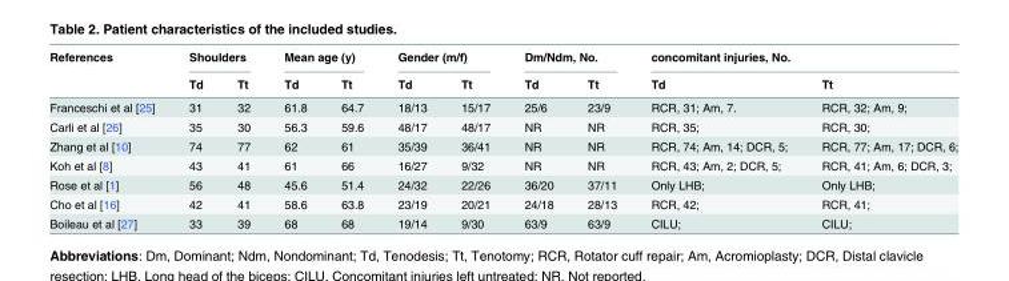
<table><thead><tr><td rowspan="2">References</td><td colspan="2">Shoulders</td><td colspan="2">Mean age (y)</td><td colspan="2">Gender (m/f)</td><td colspan="2">Dm/Ndm, No.</td><td colspan="2">concomitant injuries, No.</td></tr><tr><td>Td</td><td>Tt</td><td>Td</td><td>Tt</td><td>Td</td><td>Tt</td><td>Td</td><td>Tt</td><td>Td</td><td>Tt</td></tr></thead><tbody><tr><td>Franceschi et al [25]</td><td>31</td><td>32</td><td>61.8</td><td>64.7</td><td>18/13</td><td>15/17</td><td>25/6</td><td>23/9</td><td>RCR, 31; Am, 7.</td><td>RCR, 32; Am, 9;</td></tr><tr><td>Carli et al [26]</td><td>35</td><td>30</td><td>56.3</td><td>59.6</td><td>48/17</td><td>48/17</td><td>NR</td><td>NR</td><td>RCR, 35;</td><td>RCR, 30;</td></tr><tr><td>Zhang et al [10]</td><td>74</td><td>77</td><td>62</td><td>61</td><td>35/39</td><td>36/41</td><td>NR</td><td>NR</td><td>RCR, 74; Am, 14; DCR, 5;</td><td>RCR, 77; Am, 17; DCR, 6;</td></tr><tr><td>Koh et al [8]</td><td>43</td><td>41</td><td>61</td><td>66</td><td>16/27</td><td>9/32</td><td>NR</td><td>NR</td><td>RCR, 43; Am, 2; DCR, 5;</td><td>RCR, 41; Am, 6; DCR, 3;</td></tr><tr><td>Rose et al [1]</td><td>56</td><td>48</td><td>45.6</td><td>51.4</td><td>24/32</td><td>22/26</td><td>36/20</td><td>37/11</td><td>Only LHB;</td><td>Only LHB;</td></tr><tr><td>Cho et al [16]</td><td>42</td><td>41</td><td>58.6</td><td>63.8</td><td>23/19</td><td>20/21</td><td>24/18</td><td>28/13</td><td>RCR, 42;</td><td>RCR, 41;</td></tr><tr><td>Boileau et al [27]</td><td>33</td><td>39</td><td>68</td><td>68</td><td>19/14</td><td>9/30</td><td>63/9</td><td>63/9</td><td>CILU;</td><td>CILU;</td></tr></tbody></table>